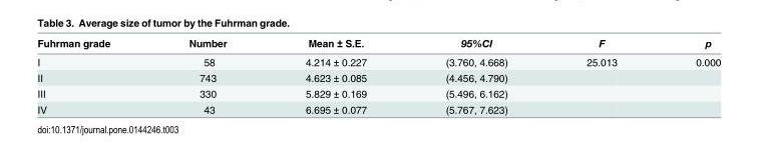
<table><thead><tr><td>Fuhrman grade</td><td>Number</td><td>Mean ± S.E.</td><td>95%CI</td><td>F</td><td>p</td></tr></thead><tbody><tr><td>I</td><td>58</td><td>4.214 ± 0.227</td><td>(3.760, 4.668)</td><td>25.013</td><td>0.000</td></tr><tr><td>II</td><td>743</td><td>4.623 ± 0.085</td><td>(4.456, 4.790)</td><td></td><td></td></tr><tr><td>III</td><td>330</td><td>5.829 ± 0.169</td><td>(5.496, 6.162)</td><td></td><td></td></tr><tr><td>IV</td><td>43</td><td>6.695 ± 0.077</td><td>(5.767, 7.623)</td><td></td><td></td></tr></tbody></table>